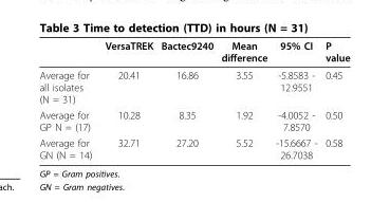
<table><thead><tr><td></td><td>VersaTREK</td><td>Bactec9240</td><td>Mean difference</td><td>95% CI</td><td>P value</td></tr></thead><tbody><tr><td>Average for all isolates (N = 31)</td><td>20.41</td><td>16.86</td><td>3.55</td><td>-5.8583 - 12.9551</td><td>0.45</td></tr><tr><td>Average for GP N = (17)</td><td>10.28</td><td>8.35</td><td>1.92</td><td>-4.0052 - 7.8570</td><td>0.50</td></tr><tr><td>Average for GN (N = 14)</td><td>32.71</td><td>27.20</td><td>5.52</td><td>-15.6667 - 26.7038</td><td>0.58</td></tr></tbody></table>